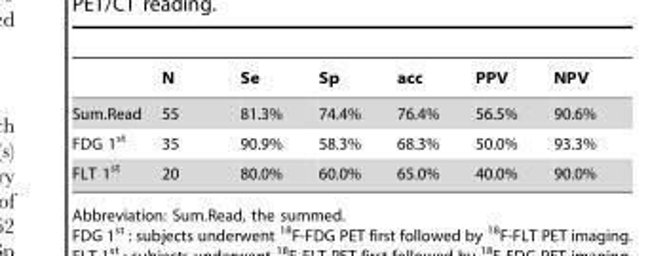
<table><thead><tr><td></td><td>N</td><td>Se</td><td>Sp</td><td>acc</td><td>PPV</td><td>NPV</td></tr></thead><tbody><tr><td>Sum.Read</td><td>55</td><td>81.3%</td><td>74.4%</td><td>76.4%</td><td>56.5%</td><td>90.6%</td></tr><tr><td>FDG 1<sup>st</sup></td><td>35</td><td>90.9%</td><td>58.3%</td><td>68.3%</td><td>50.0%</td><td>93.3%</td></tr><tr><td>FLT 1<sup>st</sup></td><td>20</td><td>80.0%</td><td>60.0%</td><td>65.0%</td><td>40.0%</td><td>90.0%</td></tr></tbody></table>